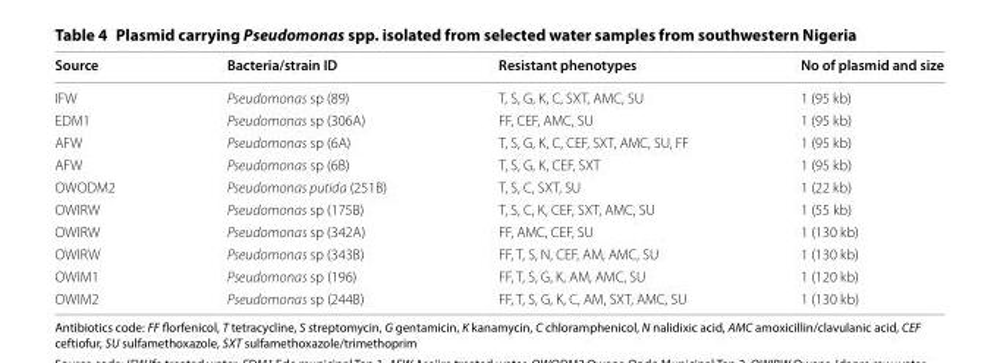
<table><thead><tr><td>Source</td><td>Bacteria/strain ID</td><td>Resistant phenotypes</td><td>No of plasmid and size</td></tr></thead><tbody><tr><td>IFW</td><td>Pseudomonas sp (89)</td><td>T, S, G, K, C, SXT, AMC, SU</td><td>1 (95 kb)</td></tr><tr><td>EDM1</td><td>Pseudomonas sp (306A)</td><td>FF, CEF, AMC, SU</td><td>1 (95 kb)</td></tr><tr><td>AFW</td><td>Pseudomonas sp (6A)</td><td>T, S, G, K, C, CEF, SXT, AMC, SU, FF</td><td>1 (95 kb)</td></tr><tr><td>AFW</td><td>Pseudomonas sp (6B)</td><td>T, S, G, K, CEF, SXT</td><td>1 (95 kb)</td></tr><tr><td>OWODM2</td><td>Pseudomonas putida (251B)</td><td>T, S, C, SXT, SU</td><td>1 (22 kb)</td></tr><tr><td>OWIRW</td><td>Pseudomonas sp (175B)</td><td>T, S, C, K, CEF, SXT, AMC, SU</td><td>1 (55 kb)</td></tr><tr><td>OWIRW</td><td>Pseudomonas sp (342A)</td><td>FF, AMC, CEF, SU</td><td>1 (130 kb)</td></tr><tr><td>OWIRW</td><td>Pseudomonas sp (343B)</td><td>FF, T, S, N, CEF, AM, AMC, SU</td><td>1 (130 kb)</td></tr><tr><td>OWIM1</td><td>Pseudomonas sp (196)</td><td>FF, T, S, G, K, AM, AMC, SU</td><td>1 (120 kb)</td></tr><tr><td>OWIM2</td><td>Pseudomonas sp (244B)</td><td>FF, T, S, G, K, C, AM, SXT, AMC, SU</td><td>1 (130 kb)</td></tr></tbody></table>